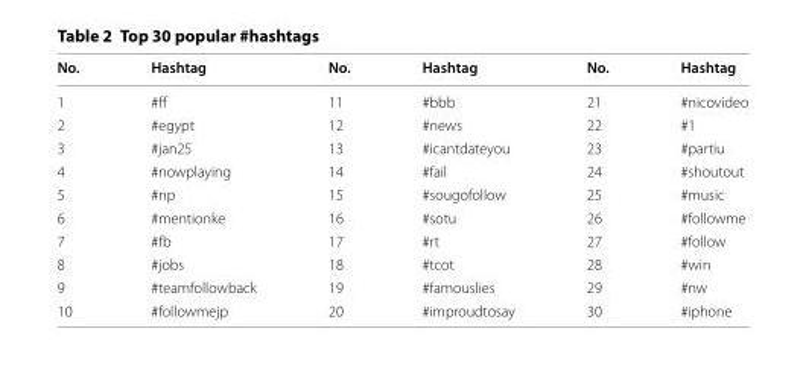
<table><thead><tr><td>No.</td><td>Hashtag</td><td>No.</td><td>Hashtag</td><td>No.</td><td>Hashtag</td></tr></thead><tbody><tr><td>1</td><td>#ff</td><td>11</td><td>#bbb</td><td>21</td><td>#nicovideo</td></tr><tr><td>2</td><td>#egypt</td><td>12</td><td>#news</td><td>22</td><td>#1</td></tr><tr><td>3</td><td>#jan25</td><td>13</td><td>#icantdateyou</td><td>23</td><td>#partiu</td></tr><tr><td>4</td><td>#nowplaying</td><td>14</td><td>#fail</td><td>24</td><td>#shoutout</td></tr><tr><td>5</td><td>#np</td><td>15</td><td>#sougofollow</td><td>25</td><td>#music</td></tr><tr><td>6</td><td>#mentionke</td><td>16</td><td>#sotu</td><td>26</td><td>#followme</td></tr><tr><td>7</td><td>#fb</td><td>17</td><td>#rt</td><td>27</td><td>#follow</td></tr><tr><td>8</td><td>#jobs</td><td>18</td><td>#tcot</td><td>28</td><td>#win</td></tr><tr><td>9</td><td>#teamfollowback</td><td>19</td><td>#famouslies</td><td>29</td><td>#nw</td></tr><tr><td>10</td><td>#followmejp</td><td>20</td><td>#improudtosay</td><td>30</td><td>#iphone</td></tr></tbody></table>